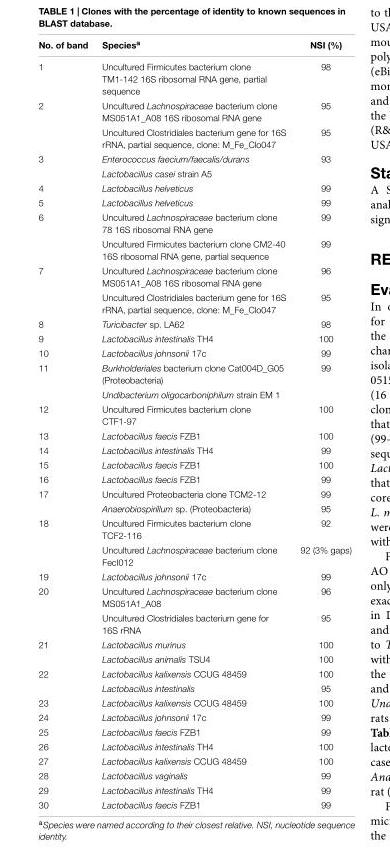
<table><thead><tr><td>No. of band</td><td>Species<sup>a</sup></td><td>NSI (%)</td></tr></thead><tbody><tr><td>1</td><td>Uncultured Firmicutes bacterium clone TM1-142 16S ribosomal RNA gene, partial sequence</td><td>98</td></tr><tr><td rowspan="2">2</td><td>Uncultured Lachnospiraceae bacterium clone MS051A1_A08 16S ribosomal RNA gene</td><td>95</td></tr><tr><td>Uncultured Clostridiales bacterium gene for 16S rRNA, partial sequence, clone: M_Fe_Clo047</td><td>95</td></tr><tr><td rowspan="2">3</td><td>Enterococcus faecium/faecalis/durans</td><td>93</td></tr><tr><td>Lactobacillus casei strain A5</td><td></td></tr><tr><td>4</td><td>Lactobacillus helveticus</td><td>99</td></tr><tr><td>5</td><td>Lactobacillus helveticus</td><td>99</td></tr><tr><td rowspan="2">6</td><td>Uncultured Lachnospiraceae bacterium clone 78 16S ribosomal RNA gene</td><td>99</td></tr><tr><td>Uncultured Firmicutes bacterium clone CM2-40 16S ribosomal RNA gene, partial sequence</td><td>99</td></tr><tr><td rowspan="2">7</td><td>Uncultured Lachnospiraceae bacterium clone MS051A1_A08 16S ribosomal RNA gene</td><td>96</td></tr><tr><td>Uncultured Clostridiales bacterium gene for 16S rRNA, partial sequence, clone: M_Fe_Clo047</td><td>95</td></tr><tr><td>8</td><td>Turicibacter sp. LA62</td><td>98</td></tr><tr><td>9</td><td>Lactobacillus intestinalis TH4</td><td>100</td></tr><tr><td>10</td><td>Lactobacillus johnsonii 17c</td><td>99</td></tr><tr><td rowspan="2">11</td><td>Burkholderiales bacterium clone Cat004D_G05 (Proteobacteria)</td><td>99</td></tr><tr><td>Undibacterium oligocarboniphilum strain EM 1</td><td></td></tr><tr><td>12</td><td>Uncultured Firmicutes bacterium clone CTF1-97</td><td>100</td></tr><tr><td>13</td><td>Lactobacillus faecis FZB1</td><td>100</td></tr><tr><td>14</td><td>Lactobacillus intestinalis TH4</td><td>99</td></tr><tr><td>15</td><td>Lactobacillus faecis FZB1</td><td>100</td></tr><tr><td>16</td><td>Lactobacillus faecis FZB1</td><td>99</td></tr><tr><td rowspan="2">17</td><td>Uncultured Proteobacteria clone TCM2-12</td><td>99</td></tr><tr><td>Anaerobiospirillum sp. (Proteobacteria)</td><td>95</td></tr><tr><td rowspan="2">18</td><td>Uncultured Firmicutes bacterium clone TCF2-116</td><td>92</td></tr><tr><td>Uncultured Lachnospiraceae bacterium clone FecI012</td><td>92 (3% gaps)</td></tr><tr><td>19</td><td>Lactobacillus johnsonii 17c</td><td>99</td></tr><tr><td rowspan="2">20</td><td>Uncultured Lachnospiraceae bacterium clone MS051A1_A08</td><td>96</td></tr><tr><td>Uncultured Clostridiales bacterium gene for 16S rRNA</td><td>95</td></tr><tr><td rowspan="2">21</td><td>Lactobacillus murinus</td><td>100</td></tr><tr><td>Lactobacillus animalis TSU4</td><td>100</td></tr><tr><td rowspan="2">22</td><td>Lactobacillus kalixensis CCUG 48459</td><td>100</td></tr><tr><td>Lactobacillus intestinalis</td><td>95</td></tr><tr><td>23</td><td>Lactobacillus kalixensis CCUG 48459</td><td>100</td></tr><tr><td>24</td><td>Lactobacillus johnsonii 17c</td><td>99</td></tr><tr><td>25</td><td>Lactobacillus faecis FZB1</td><td>99</td></tr><tr><td>26</td><td>Lactobacillus intestinalis TH4</td><td>100</td></tr><tr><td>27</td><td>Lactobacillus kalixensis CCUG 48459</td><td>100</td></tr><tr><td>28</td><td>Lactobacillus vaginalis</td><td>99</td></tr><tr><td>29</td><td>Lactobacillus intestinalis TH4</td><td>99</td></tr><tr><td>30</td><td>Lactobacillus faecis FZB1</td><td>99</td></tr></tbody></table>